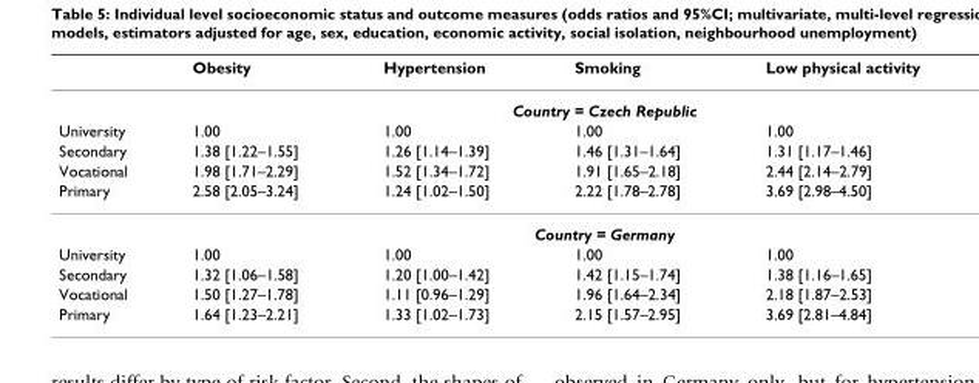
<table><thead><tr><td></td><td>Obesity</td><td>Hypertension</td><td>Smoking</td><td>Low physical activity</td></tr></thead><tbody><tr><td></td><td colspan="4">Country = Czech Republic</td></tr><tr><td>University</td><td>1.00</td><td>1.00</td><td>1.00</td><td>1.00</td></tr><tr><td>Secondary</td><td>1.38 [1.22–1.55]</td><td>1.26 [1.14–1.39]</td><td>1.46 [1.31–1.64]</td><td>1.31 [1.17–1.46]</td></tr><tr><td>Vocational</td><td>1.98 [1.71–2.29]</td><td>1.52 [1.34–1.72]</td><td>1.91 [1.65–2.18]</td><td>2.44 [2.14–2.79]</td></tr><tr><td rowspan="2">Primary</td><td>2.58 [2.05–3.24]</td><td>1.24 [1.02–1.50]</td><td>2.22 [1.78–2.78]</td><td>3.69 [2.98–4.50]</td></tr><tr><td colspan="4">Country = Germany</td></tr><tr><td>University</td><td>1.00</td><td>1.00</td><td>1.00</td><td>1.00</td></tr><tr><td>Secondary</td><td>1.32 [1.06–1.58]</td><td>1.20 [1.00–1.42]</td><td>1.42 [1.15–1.74]</td><td>1.38 [1.16–1.65]</td></tr><tr><td>Vocational</td><td>1.50 [1.27–1.78]</td><td>1.11 [0.96–1.29]</td><td>1.96 [1.64–2.34]</td><td>2.18 [1.87–2.53]</td></tr><tr><td>Primary</td><td>1.64 [1.23–2.21]</td><td>1.33 [1.02–1.73]</td><td>2.15 [1.57–2.95]</td><td>3.69 [2.81–4.84]</td></tr></tbody></table>